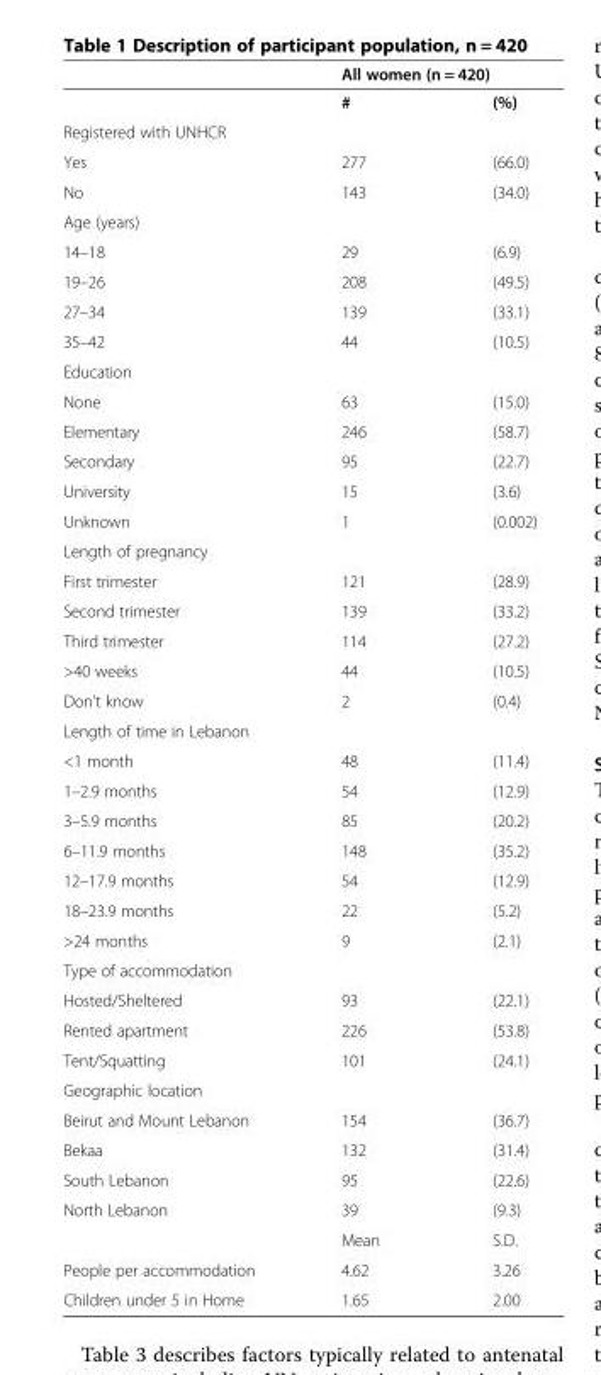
<table><thead><tr><td rowspan="2"></td><td colspan="2">All women (n = 420)</td></tr><tr><td>#</td><td>(%)</td></tr></thead><tbody><tr><td colspan="3">Registered with UNHCR</td></tr><tr><td>Yes</td><td>277</td><td>(66.0)</td></tr><tr><td>No</td><td>143</td><td>(34.0)</td></tr><tr><td colspan="3">Age (years)</td></tr><tr><td>14–18</td><td>29</td><td>(6.9)</td></tr><tr><td>19–26</td><td>208</td><td>(49.5)</td></tr><tr><td>27–34</td><td>139</td><td>(33.1)</td></tr><tr><td>35–42</td><td>44</td><td>(10.5)</td></tr><tr><td colspan="3">Education</td></tr><tr><td>None</td><td>63</td><td>(15.0)</td></tr><tr><td>Elementary</td><td>246</td><td>(58.7)</td></tr><tr><td>Secondary</td><td>95</td><td>(22.7)</td></tr><tr><td>University</td><td>15</td><td>(3.6)</td></tr><tr><td>Unknown</td><td>1</td><td>(0.002)</td></tr><tr><td colspan="3">Length of pregnancy</td></tr><tr><td>First trimester</td><td>121</td><td>(28.9)</td></tr><tr><td>Second trimester</td><td>139</td><td>(33.2)</td></tr><tr><td>Third trimester</td><td>114</td><td>(27.2)</td></tr><tr><td>&gt;40 weeks</td><td>44</td><td>(10.5)</td></tr><tr><td>Don’t know</td><td>2</td><td>(0.4)</td></tr><tr><td colspan="3">Length of time in Lebanon</td></tr><tr><td>&lt;1 month</td><td>48</td><td>(11.4)</td></tr><tr><td>1–2.9 months</td><td>54</td><td>(12.9)</td></tr><tr><td>3–5.9 months</td><td>85</td><td>(20.2)</td></tr><tr><td>6–11.9 months</td><td>148</td><td>(35.2)</td></tr><tr><td>12–17.9 months</td><td>54</td><td>(12.9)</td></tr><tr><td>18–23.9 months</td><td>22</td><td>(5.2)</td></tr><tr><td>&gt;24 months</td><td>9</td><td>(2.1)</td></tr><tr><td colspan="3">Type of accommodation</td></tr><tr><td>Hosted/Sheltered</td><td>93</td><td>(22.1)</td></tr><tr><td>Rented apartment</td><td>226</td><td>(53.8)</td></tr><tr><td>Tent/Squatting</td><td>101</td><td>(24.1)</td></tr><tr><td colspan="3">Geographic location</td></tr><tr><td>Beirut and Mount Lebanon</td><td>154</td><td>(36.7)</td></tr><tr><td>Bekaa</td><td>132</td><td>(31.4)</td></tr><tr><td>South Lebanon</td><td>95</td><td>(22.6)</td></tr><tr><td rowspan="2">North Lebanon</td><td>39</td><td>(9.3)</td></tr><tr><td>Mean</td><td>S.D.</td></tr><tr><td>People per accommodation</td><td>4.62</td><td>3.26</td></tr><tr><td>Children under 5 in Home</td><td>1.65</td><td>2.00</td></tr></tbody></table>